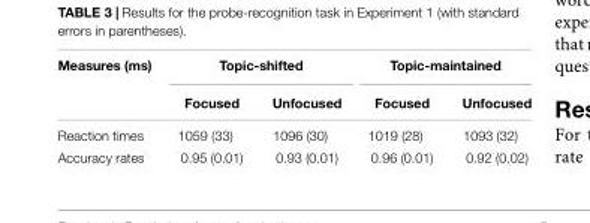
<table><thead><tr><td rowspan="2">Measures (ms)</td><td colspan="2">Topic-shifted</td><td colspan="2">Topic-maintained</td></tr><tr><td>Focused</td><td>Unfocused</td><td>Focused</td><td>Unfocused</td></tr></thead><tbody><tr><td>Reaction times</td><td>1059 (33)</td><td>1096 (30)</td><td>1019 (28)</td><td>1093 (32)</td></tr><tr><td>Accuracy rates</td><td>0.95 (0.01)</td><td>0.93 (0.01)</td><td>0.96 (0.01)</td><td>0.92 (0.02)</td></tr></tbody></table>